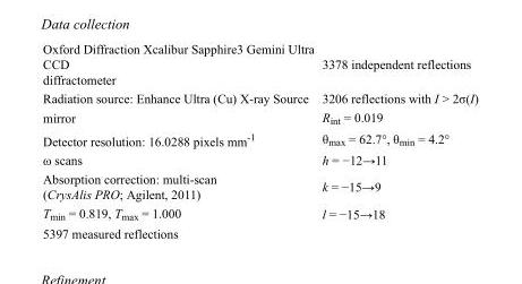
<table><tbody><tr><td>Oxford Diffraction Xcalibur Sapphire3 Gemini Ultra CCD diffractometer</td><td>3378 independent reflections</td></tr><tr><td>Radiation source: Enhance Ultra (Cu) X-ray Source</td><td>3206 reflections with I &gt; 2σ(I)</td></tr><tr><td>mirror</td><td>R<sub>int</sub> = 0.019</td></tr><tr><td>Detector resolution: 16.0288 pixels mm<sup>-1</sup></td><td>θ<sub>max</sub> = 62.7°, θ<sub>min</sub> = 4.2°</td></tr><tr><td>ω scans</td><td>h = −12→11</td></tr><tr><td>Absorption correction: multi-scan (CrysAlis PRO; Agilent, 2011)</td><td>k = −15→9</td></tr><tr><td>T<sub>min</sub> = 0.819, T<sub>max</sub> = 1.000</td><td>l = −15→18</td></tr><tr><td>5397 measured reflections</td><td></td></tr></tbody></table>